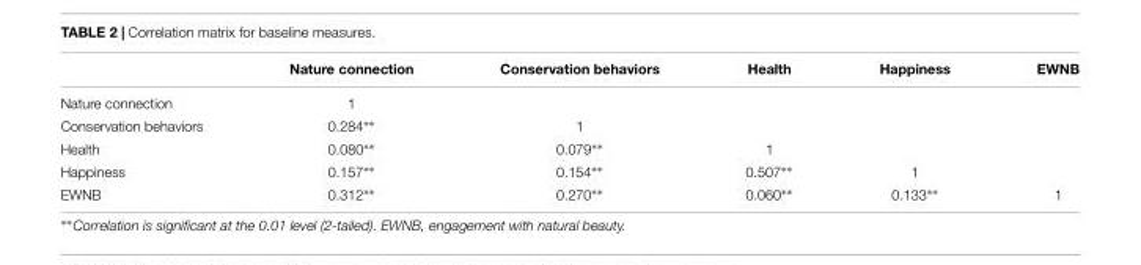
<table><thead><tr><td></td><td>Nature connection</td><td>Conservation behaviors</td><td>Health</td><td>Happiness</td><td>EWNB</td></tr></thead><tbody><tr><td>Nature connection</td><td>1</td><td></td><td></td><td></td><td></td></tr><tr><td>Conservation behaviors</td><td>0.284∗∗</td><td>1</td><td></td><td></td><td></td></tr><tr><td>Health</td><td>0.080∗∗</td><td>0.079∗∗</td><td>1</td><td></td><td></td></tr><tr><td>Happiness</td><td>0.157∗∗</td><td>0.154∗∗</td><td>0.507∗∗</td><td>1</td><td></td></tr><tr><td>EWNB</td><td>0.312∗∗</td><td>0.270∗∗</td><td>0.060∗∗</td><td>0.133∗∗</td><td>1</td></tr></tbody></table>